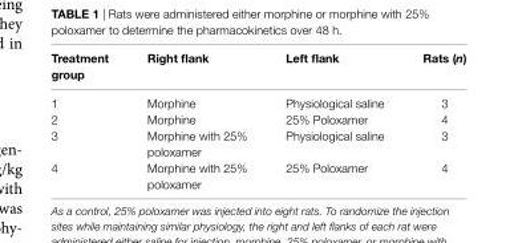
<table><thead><tr><td>Treatment group</td><td>right flank</td><td>left flank</td><td>rats (n)</td></tr></thead><tbody><tr><td>1</td><td>Morphine</td><td>Physiological saline</td><td>3</td></tr><tr><td>2</td><td>Morphine</td><td>25% Poloxamer</td><td>4</td></tr><tr><td>3</td><td>Morphine with 25% poloxamer</td><td>Physiological saline</td><td>3</td></tr><tr><td>4</td><td>Morphine with 25% poloxamer</td><td>25% Poloxamer</td><td>4</td></tr></tbody></table>